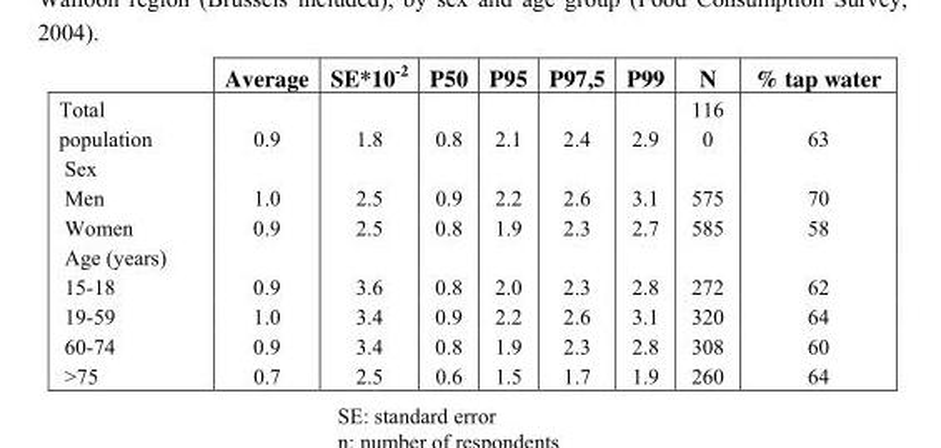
<table><thead><tr><td></td><td>Average</td><td>SE*10<sup>-2</sup></td><td>P50</td><td>P95</td><td>P97,5</td><td>P99</td><td>N</td><td>% tap water</td></tr></thead><tbody><tr><td>Total population</td><td>0.9</td><td>1.8</td><td>0.8</td><td>2.1</td><td>2.4</td><td>2.9</td><td>116 0</td><td>63</td></tr><tr><td colspan="9">Sex</td></tr><tr><td>Men</td><td>1.0</td><td>2.5</td><td>0.9</td><td>2.2</td><td>2.6</td><td>3.1</td><td>575</td><td>70</td></tr><tr><td>Women</td><td>0.9</td><td>2.5</td><td>0.8</td><td>1.9</td><td>2.3</td><td>2.7</td><td>585</td><td>58</td></tr><tr><td colspan="9">Age (years)</td></tr><tr><td>15-18</td><td>0.9</td><td>3.6</td><td>0.8</td><td>2.0</td><td>2.3</td><td>2.8</td><td>272</td><td>62</td></tr><tr><td>19-59</td><td>1.0</td><td>3.4</td><td>0.9</td><td>2.2</td><td>2.6</td><td>3.1</td><td>320</td><td>64</td></tr><tr><td>60-74</td><td>0.9</td><td>3.4</td><td>0.8</td><td>1.9</td><td>2.3</td><td>2.8</td><td>308</td><td>60</td></tr><tr><td>&gt;75</td><td>0.7</td><td>2.5</td><td>0.6</td><td>1.5</td><td>1.7</td><td>1.9</td><td>260</td><td>64</td></tr></tbody></table>